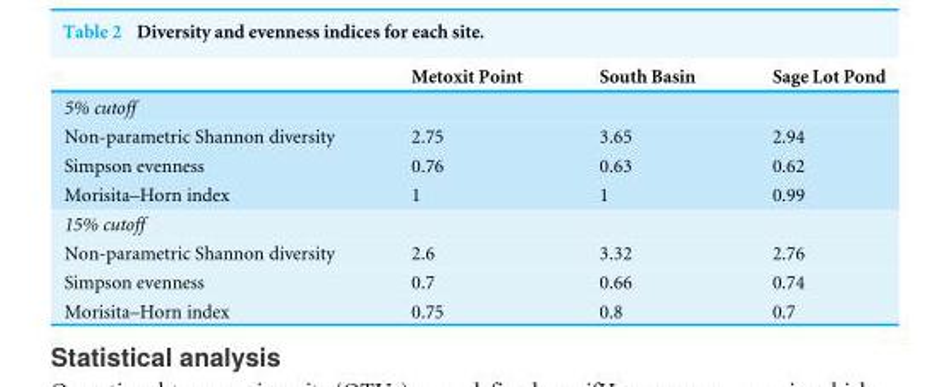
<table><thead><tr><td></td><td>Metoxit Point</td><td>South Basin</td><td>Sage Lot Pond</td></tr></thead><tbody><tr><td colspan="4">5% cutoff</td></tr><tr><td>Non-parametric Shannon diversity</td><td>2.75</td><td>3.65</td><td>2.94</td></tr><tr><td>Simpson evenness</td><td>0.76</td><td>0.63</td><td>0.62</td></tr><tr><td>Morisita–Horn index</td><td>1</td><td>1</td><td>0.99</td></tr><tr><td colspan="4">15% cutoff</td></tr><tr><td>Non-parametric Shannon diversity</td><td>2.6</td><td>3.32</td><td>2.76</td></tr><tr><td>Simpson evenness</td><td>0.7</td><td>0.66</td><td>0.74</td></tr><tr><td>Morisita–Horn index</td><td>0.75</td><td>0.8</td><td>0.7</td></tr></tbody></table>